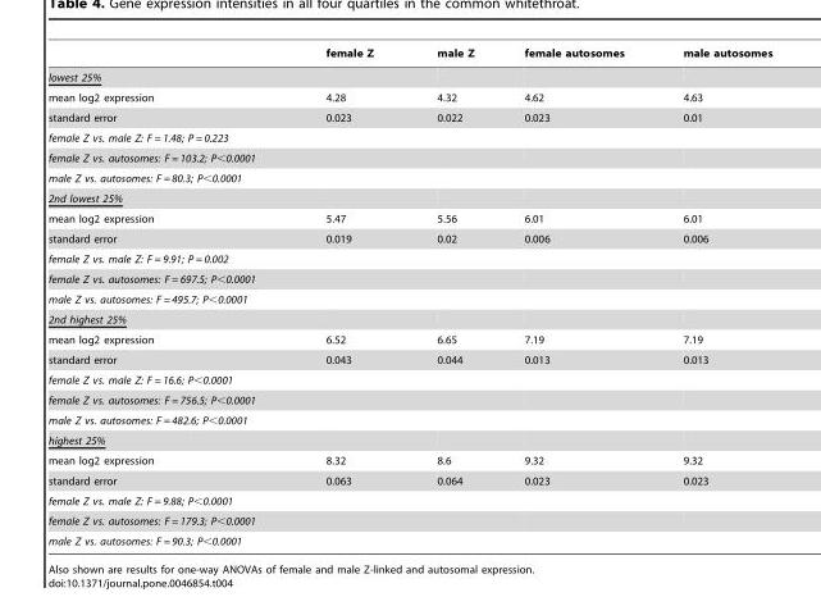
<table><thead><tr><td></td><td>female Z</td><td>male Z</td><td>female autosomes</td><td>male autosomes</td></tr></thead><tbody><tr><td colspan="5">lowest 25%</td></tr><tr><td>mean log2 expression</td><td>4.28</td><td>4.32</td><td>4.62</td><td>4.63</td></tr><tr><td>standard error</td><td>0.023</td><td>0.022</td><td>0.023</td><td>0.01</td></tr><tr><td colspan="5">female Z vs. male Z: F = 1.48; P = 0.223</td></tr><tr><td colspan="5">female Z vs. autosomes: F = 103.2; P&lt;0.0001</td></tr><tr><td colspan="5">male Z vs. autosomes: F = 80.3; P&lt;0.0001</td></tr><tr><td colspan="5">2nd lowest 25%</td></tr><tr><td>mean log2 expression</td><td>5.47</td><td>5.56</td><td>6.01</td><td>6.01</td></tr><tr><td>standard error</td><td>0.019</td><td>0.02</td><td>0.006</td><td>0.006</td></tr><tr><td colspan="5">female Z vs. male Z: F = 9.91; P = 0.002</td></tr><tr><td colspan="5">female Z vs. autosomes: F = 697.5; P&lt;0.0001</td></tr><tr><td colspan="5">male Z vs. autosomes: F = 495.7; P&lt;0.0001</td></tr><tr><td colspan="5">2nd highest 25%</td></tr><tr><td>mean log2 expression</td><td>6.52</td><td>6.65</td><td>7.19</td><td>7.19</td></tr><tr><td>standard error</td><td>0.043</td><td>0.044</td><td>0.013</td><td>0.013</td></tr><tr><td colspan="5">female Z vs. male Z: F = 16.6; P&lt;0.0001</td></tr><tr><td colspan="5">female Z vs. autosomes: F = 756.5; P&lt;0.0001</td></tr><tr><td colspan="5">male Z vs. autosomes: F = 482.6; P&lt;0.0001</td></tr><tr><td colspan="5">highest 25%</td></tr><tr><td>mean log2 expression</td><td>8.32</td><td>8.6</td><td>9.32</td><td>9.32</td></tr><tr><td>standard error</td><td>0.063</td><td>0.064</td><td>0.023</td><td>0.023</td></tr><tr><td colspan="5">female Z vs. male Z: F = 9.88; P&lt;0.0001</td></tr><tr><td colspan="5">female Z vs. autosomes: F = 179.3; P&lt;0.0001</td></tr><tr><td colspan="2">male Z vs. autosomes: F = 90.3; P&lt;0.0001</td><td></td><td></td><td></td></tr></tbody></table>